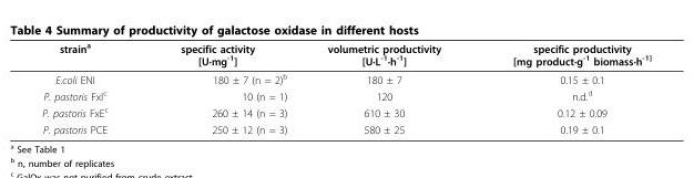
<table><thead><tr><td>strain<sup>a</sup></td><td>specific activity [U·mg<sup>-1</sup>]</td><td>volumetric productivity [U·L<sup>-1</sup>·h<sup>-1</sup>]</td><td>specific productivity [mg product·g<sup>-1</sup> biomass·h<sup>-1]</sup></td></tr></thead><tbody><tr><td>E.coli ENI</td><td>180 ± 7 (n = 2)<sup>b</sup></td><td>180 ± 7</td><td>0.15 ± 0.1</td></tr><tr><td>P. pastoris FxI<sup>c</sup></td><td>10 (n = 1)</td><td>120</td><td>n.d.<sup>d</sup></td></tr><tr><td>P. pastoris FxE<sup>c</sup></td><td>260 ± 14 (n = 3)</td><td>610 ± 30</td><td>0.12 ± 0.09</td></tr><tr><td>P. pastoris PCE</td><td>250 ± 12 (n = 3)</td><td>580 ± 25</td><td>0.19 ± 0.1</td></tr></tbody></table>